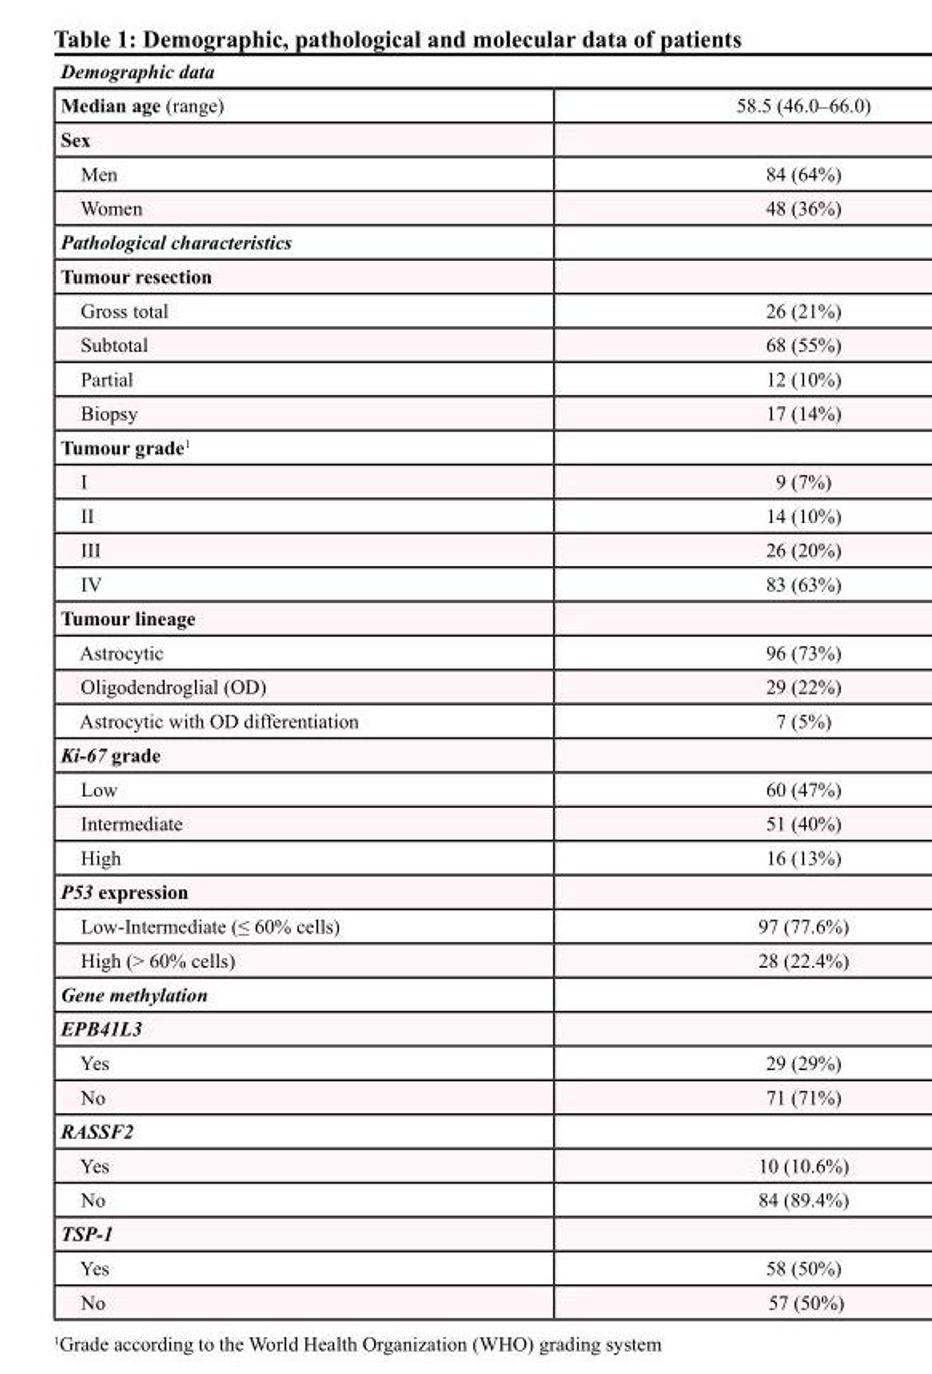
<table><thead><tr><td colspan="2">Demographic data</td></tr><tr><td>Median age (range)</td><td>58.5 (46.0–66.0)</td></tr></thead><tbody><tr><td colspan="2">Sex</td></tr><tr><td>Men</td><td>84 (64%)</td></tr><tr><td>Women</td><td>48 (36%)</td></tr><tr><td colspan="2">Pathological characteristics</td></tr><tr><td colspan="2">Tumour resection</td></tr><tr><td>Gross total</td><td>26 (21%)</td></tr><tr><td>Subtotal</td><td>68 (55%)</td></tr><tr><td>Partial</td><td>12 (10%)</td></tr><tr><td>Biopsy</td><td>17 (14%)</td></tr><tr><td colspan="2">Tumour grade<sup>1</sup></td></tr><tr><td>I</td><td>9 (7%)</td></tr><tr><td>II</td><td>14 (10%)</td></tr><tr><td>III</td><td>26 (20%)</td></tr><tr><td>IV</td><td>83 (63%)</td></tr><tr><td colspan="2">Tumour lineage</td></tr><tr><td>Astrocytic</td><td>96 (73%)</td></tr><tr><td>Oligodendroglial (OD)</td><td>29 (22%)</td></tr><tr><td>Astrocytic with OD differentiation</td><td>7 (5%)</td></tr><tr><td colspan="2">Ki-67 grade</td></tr><tr><td>Low</td><td>60 (47%)</td></tr><tr><td>Intermediate</td><td>51 (40%)</td></tr><tr><td>High</td><td>16 (13%)</td></tr><tr><td colspan="2">P53 expression</td></tr><tr><td>Low-Intermediate (≤ 60% cells)</td><td>97 (77.6%)</td></tr><tr><td>High (&gt; 60% cells)</td><td>28 (22.4%)</td></tr><tr><td colspan="2">Gene methylation</td></tr><tr><td colspan="2">EPB41L3</td></tr><tr><td>Yes</td><td>29 (29%)</td></tr><tr><td>No</td><td>71 (71%)</td></tr><tr><td colspan="2">RASSF2</td></tr><tr><td>Yes</td><td>10 (10.6%)</td></tr><tr><td>No</td><td>84 (89.4%)</td></tr><tr><td colspan="2">TSP-1</td></tr><tr><td>Yes</td><td>58 (50%)</td></tr><tr><td>No</td><td>57 (50%)</td></tr></tbody></table>